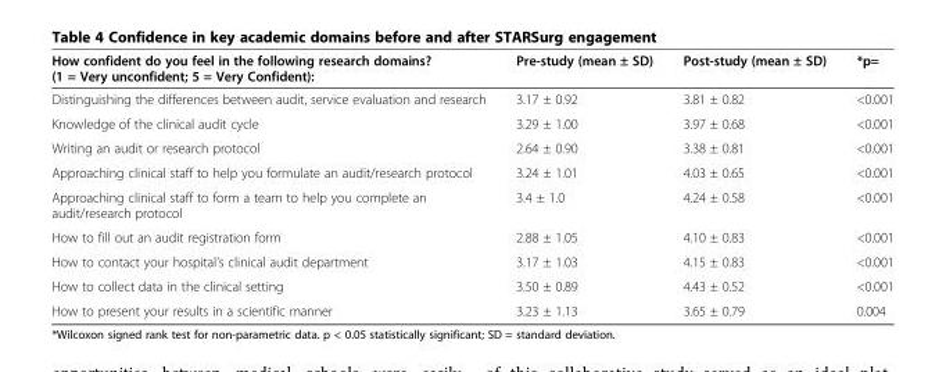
<table><thead><tr><td>How confident do you feel in the following research domains? (1 = Very unconfident; 5 = Very Confident):</td><td>Pre-study (mean ± SD)</td><td>Post-study (mean ± SD)</td><td>*p=</td></tr></thead><tbody><tr><td>Distinguishing the differences between audit, service evaluation and research</td><td>3.17 ± 0.92</td><td>3.81 ± 0.82</td><td>&lt;0.001</td></tr><tr><td>Knowledge of the clinical audit cycle</td><td>3.29 ± 1.00</td><td>3.97 ± 0.68</td><td>&lt;0.001</td></tr><tr><td>Writing an audit or research protocol</td><td>2.64 ± 0.90</td><td>3.38 ± 0.81</td><td>&lt;0.001</td></tr><tr><td>Approaching clinical staff to help you formulate an audit/research protocol</td><td>3.24 ± 1.01</td><td>4.03 ± 0.65</td><td>&lt;0.001</td></tr><tr><td>Approaching clinical staff to form a team to help you complete an audit/research protocol</td><td>3.4 ± 1.0</td><td>4.24 ± 0.58</td><td>&lt;0.001</td></tr><tr><td>How to fill out an audit registration form</td><td>2.88 ± 1.05</td><td>4.10 ± 0.83</td><td>&lt;0.001</td></tr><tr><td>How to contact your hospital’s clinical audit department</td><td>3.17 ± 1.03</td><td>4.15 ± 0.83</td><td>&lt;0.001</td></tr><tr><td>How to collect data in the clinical setting</td><td>3.50 ± 0.89</td><td>4.43 ± 0.52</td><td>&lt;0.001</td></tr><tr><td>How to present your results in a scientific manner</td><td>3.23 ± 1.13</td><td>3.65 ± 0.79</td><td>0.004</td></tr></tbody></table>